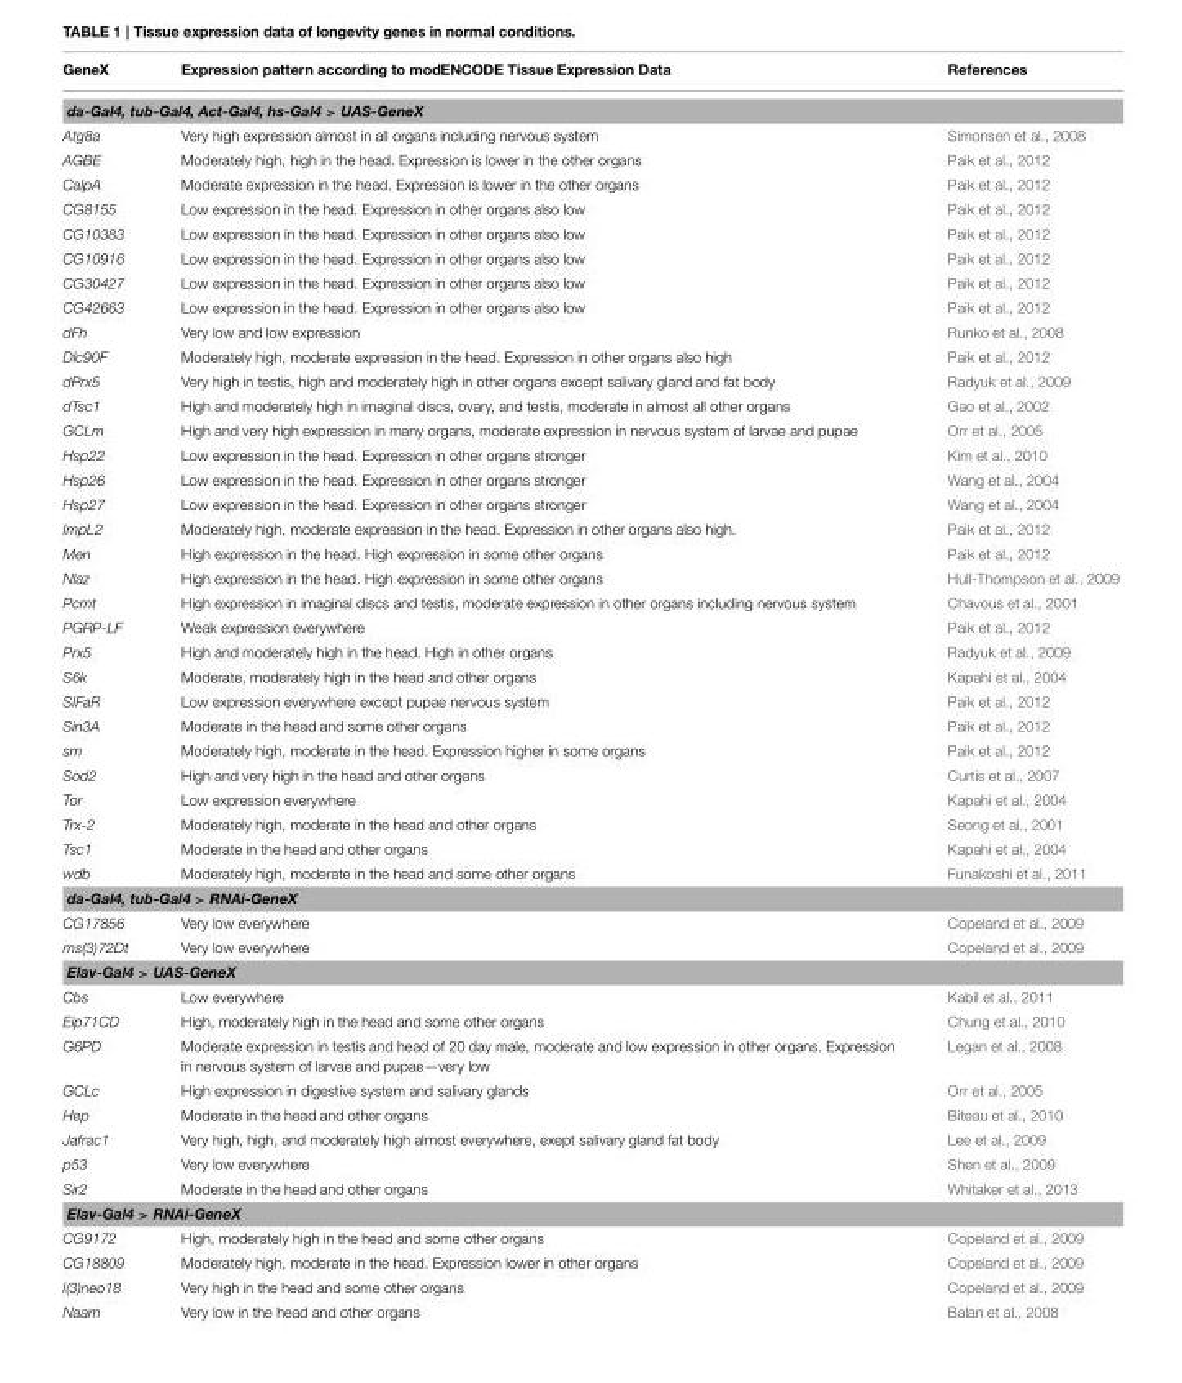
<table><thead><tr><td>GeneX</td><td>Expression pattern according to modENCODE Tissue Expression Data</td><td>References</td></tr></thead><tbody><tr><td colspan="3">da-Gal4, tub-Gal4, Act-Gal4, hs-Gal4 &gt; UAS-GeneX</td></tr><tr><td>Atg8a</td><td>Very high expression almost in all organs including nervous system</td><td>Simonsen et al., 2008</td></tr><tr><td>AGBE</td><td>Moderately high, high in the head. Expression is lower in the other organs</td><td>Paik et al., 2012</td></tr><tr><td>CalpA</td><td>Moderate expression in the head. Expression is lower in the other organs</td><td>Paik et al., 2012</td></tr><tr><td>CG8155</td><td>Low expression in the head. Expression in other organs also low</td><td>Paik et al., 2012</td></tr><tr><td>CG10383</td><td>Low expression in the head. Expression in other organs also low</td><td>Paik et al., 2012</td></tr><tr><td>CG10916</td><td>Low expression in the head. Expression in other organs also low</td><td>Paik et al., 2012</td></tr><tr><td>CG30427</td><td>Low expression in the head. Expression in other organs also low</td><td>Paik et al., 2012</td></tr><tr><td>CG42663</td><td>Low expression in the head. Expression in other organs also low</td><td>Paik et al., 2012</td></tr><tr><td>dFh</td><td>Very low and low expression</td><td>Runko et al., 2008</td></tr><tr><td>Dlc90F</td><td>Moderately high, moderate expression in the head. Expression in other organs also high</td><td>Paik et al., 2012</td></tr><tr><td>dPrx5</td><td>Very high in testis, high and moderately high in other organs except salivary gland and fat body</td><td>Radyuk et al., 2009</td></tr><tr><td>dTsc1</td><td>High and moderately high in imaginal discs, ovary, and testis, moderate in almost all other organs</td><td>Gao et al., 2002</td></tr><tr><td>GCLm</td><td>High and very high expression in many organs, moderate expression in nervous system of larvae and pupae</td><td>Orr et al., 2005</td></tr><tr><td>Hsp22</td><td>Low expression in the head. Expression in other organs stronger</td><td>Kim et al., 2010</td></tr><tr><td>Hsp26</td><td>Low expression in the head. Expression in other organs stronger</td><td>Wang et al., 2004</td></tr><tr><td>Hsp27</td><td>Low expression in the head. Expression in other organs stronger</td><td>Wang et al., 2004</td></tr><tr><td>ImpL2</td><td>Moderately high, moderate expression in the head. Expression in other organs also high.</td><td>Paik et al., 2012</td></tr><tr><td>Men</td><td>High expression in the head. High expression in some other organs</td><td>Paik et al., 2012</td></tr><tr><td>Nlaz</td><td>High expression in the head. High expression in some other organs</td><td>Hull-Thompson et al., 2009</td></tr><tr><td>Pcmt</td><td>High expression in imaginal discs and testis, moderate expression in other organs including nervous system</td><td>Chavous et al., 2001</td></tr><tr><td>PGRP-LF</td><td>Weak expression everywhere</td><td>Paik et al., 2012</td></tr><tr><td>Prx5</td><td>High and moderately high in the head. High in other organs</td><td>Radyuk et al., 2009</td></tr><tr><td>S6k</td><td>Moderate, moderately high in the head and other organs</td><td>Kapahi et al., 2004</td></tr><tr><td>SIFaR</td><td>Low expression everywhere except pupae nervous system</td><td>Paik et al., 2012</td></tr><tr><td>Sin3A</td><td>Moderate in the head and some other organs</td><td>Paik et al., 2012</td></tr><tr><td>sm</td><td>Moderately high, moderate in the head. Expression higher in some organs</td><td>Paik et al., 2012</td></tr><tr><td>Sod2</td><td>High and very high in the head and other organs</td><td>Curtis et al., 2007</td></tr><tr><td>Tor</td><td>Low expression everywhere</td><td>Kapahi et al., 2004</td></tr><tr><td>Trx-2</td><td>Moderately high, moderate in the head and other organs</td><td>Seong et al., 2001</td></tr><tr><td>Tsc1</td><td>Moderate in the head and other organs</td><td>Kapahi et al., 2004</td></tr><tr><td>wdb</td><td>Moderately high, moderate in the head and some other organs</td><td>Funakoshi et al., 2011</td></tr><tr><td colspan="3">da-Gal4, tub-Gal4 &gt; RNAi-GeneX</td></tr><tr><td>CG17856</td><td>Very low everywhere</td><td>Copeland et al., 2009</td></tr><tr><td>ms(3)72Dt</td><td>Very low everywhere</td><td>Copeland et al., 2009</td></tr><tr><td colspan="3">Elav-Gal4 &gt; UAS-GeneX</td></tr><tr><td>Cbs</td><td>Low everywhere</td><td>Kabil et al., 2011</td></tr><tr><td>Eip71CD</td><td>High, moderately high in the head and some other organs</td><td>Chung et al., 2010</td></tr><tr><td>G6PD</td><td>Moderate expression in testis and head of 20 day male, moderate and low expression in other organs. Expression in nervous system of larvae and pupae—very low</td><td>Legan et al., 2008</td></tr><tr><td>GCLc</td><td>High expression in digestive system and salivary glands</td><td>Orr et al., 2005</td></tr><tr><td>Hep</td><td>Moderate in the head and other organs</td><td>Biteau et al., 2010</td></tr><tr><td>Jafrac1</td><td>Very high, high, and moderately high almost everywhere, exept salivary gland fat body</td><td>Lee et al., 2009</td></tr><tr><td>p53</td><td>Very low everywhere</td><td>Shen et al., 2009</td></tr><tr><td>Sir2</td><td>Moderate in the head and other organs</td><td>Whitaker et al., 2013</td></tr><tr><td colspan="3">Elav-Gal4 &gt; RNAi-GeneX</td></tr><tr><td>CG9172</td><td>High, moderately high in the head and some other organs</td><td>Copeland et al., 2009</td></tr><tr><td>CG18809</td><td>Moderately high, moderate in the head. Expression lower in other organs</td><td>Copeland et al., 2009</td></tr><tr><td>l(3)neo18</td><td>Very high in the head and some other organs</td><td>Copeland et al., 2009</td></tr><tr><td>Naam</td><td>Very low in the head and other organs</td><td>Balan et al., 2008</td></tr></tbody></table>